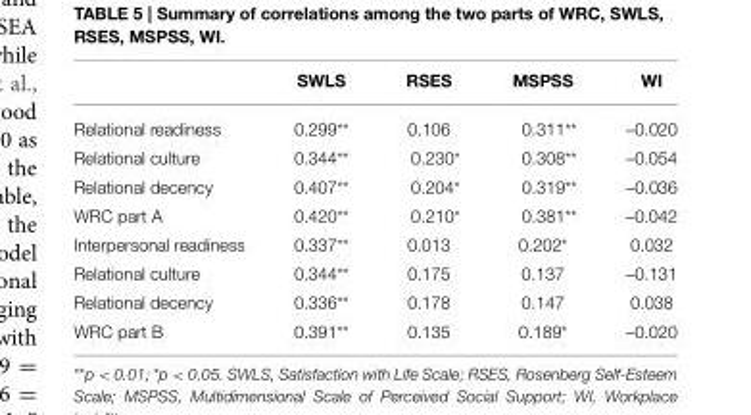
<table><thead><tr><td></td><td>SWLS</td><td>RSES</td><td>MSPSS</td><td>WI</td></tr></thead><tbody><tr><td>Relational readiness</td><td>0.299**</td><td>0.106</td><td>0.311**</td><td>–0.020</td></tr><tr><td>Relational culture</td><td>0.344**</td><td>0.230*</td><td>0.308**</td><td>–0.054</td></tr><tr><td>Relational decency</td><td>0.407**</td><td>0.204*</td><td>0.319**</td><td>–0.036</td></tr><tr><td>WRC part A</td><td>0.420**</td><td>0.210*</td><td>0.381**</td><td>–0.042</td></tr><tr><td>Interpersonal readiness</td><td>0.337**</td><td>0.013</td><td>0.202*</td><td>0.032</td></tr><tr><td>Relational culture</td><td>0.344**</td><td>0.175</td><td>0.137</td><td>–0.131</td></tr><tr><td>Relational decency</td><td>0.336**</td><td>0.178</td><td>0.147</td><td>0.038</td></tr><tr><td>WRC part B</td><td>0.391**</td><td>0.135</td><td>0.189*</td><td>–0.020</td></tr></tbody></table>